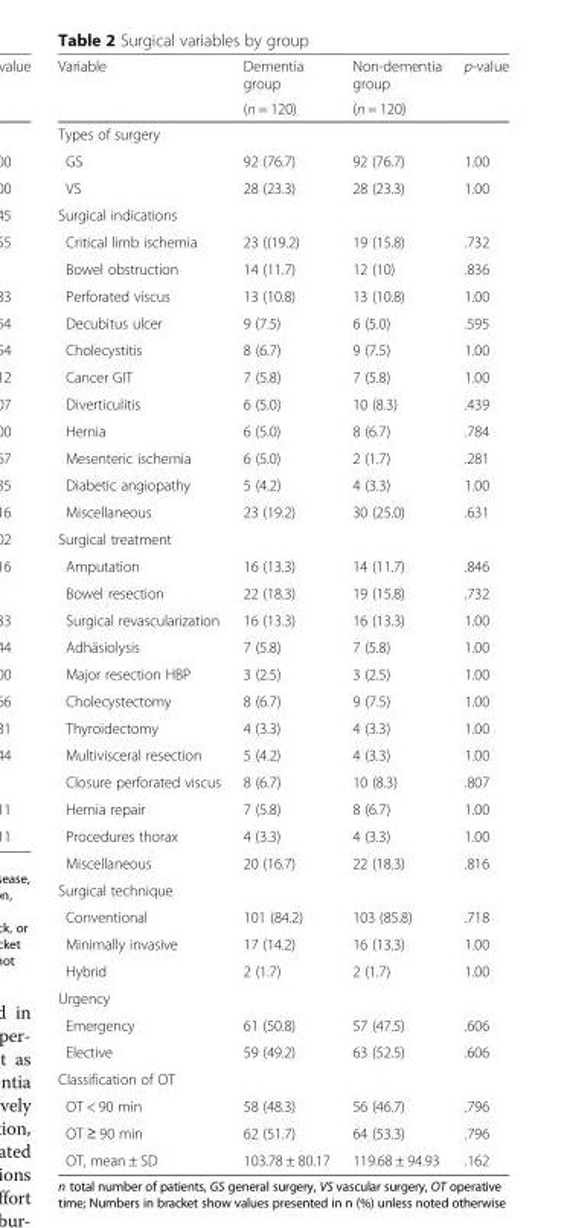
<table><thead><tr><td rowspan="2">Variable</td><td rowspan="2">Dementia group (n = 120)</td><td rowspan="2">Non-dementia group (n = 120)</td><td rowspan="2">p-value</td></tr><tr></tr></thead><tbody><tr><td colspan="4">Types of surgery</td></tr><tr><td>GS</td><td>92 (76.7)</td><td>92 (76.7)</td><td>1.00</td></tr><tr><td>VS</td><td>28 (23.3)</td><td>28 (23.3)</td><td>1.00</td></tr><tr><td colspan="4">Surgical indications</td></tr><tr><td>Critical limb ischemia</td><td>23 ((19.2)</td><td>19 (15.8)</td><td>.732</td></tr><tr><td>Bowel obstruction</td><td>14 (11.7)</td><td>12 (10)</td><td>.836</td></tr><tr><td>Perforated viscus</td><td>13 (10.8)</td><td>13 (10.8)</td><td>1.00</td></tr><tr><td>Decubitus ulcer</td><td>9 (7.5)</td><td>6 (5.0)</td><td>.595</td></tr><tr><td>Cholecystitis</td><td>8 (6.7)</td><td>9 (7.5)</td><td>1.00</td></tr><tr><td>Cancer GIT</td><td>7 (5.8)</td><td>7 (5.8)</td><td>1.00</td></tr><tr><td>Diverticulitis</td><td>6 (5.0)</td><td>10 (8.3)</td><td>.439</td></tr><tr><td>Hernia</td><td>6 (5.0)</td><td>8 (6.7)</td><td>.784</td></tr><tr><td>Mesenteric ischemia</td><td>6 (5.0)</td><td>2 (1.7)</td><td>.281</td></tr><tr><td>Diabetic angiopathy</td><td>5 (4.2)</td><td>4 (3.3)</td><td>1.00</td></tr><tr><td>Miscellaneous</td><td>23 (19.2)</td><td>30 (25.0)</td><td>.631</td></tr><tr><td colspan="4">Surgical treatment</td></tr><tr><td>Amputation</td><td>16 (13.3)</td><td>14 (11.7)</td><td>.846</td></tr><tr><td>Bowel resection</td><td>22 (18.3)</td><td>19 (15.8)</td><td>.732</td></tr><tr><td>Surgical revascularization</td><td>16 (13.3)</td><td>16 (13.3)</td><td>1.00</td></tr><tr><td>Adhäsiolysis</td><td>7 (5.8)</td><td>7 (5.8)</td><td>1.00</td></tr><tr><td>Major resection HBP</td><td>3 (2.5)</td><td>3 (2.5)</td><td>1.00</td></tr><tr><td>Cholecystectomy</td><td>8 (6.7)</td><td>9 (7.5)</td><td>1.00</td></tr><tr><td>Thyroidectomy</td><td>4 (3.3)</td><td>4 (3.3)</td><td>1.00</td></tr><tr><td>Multivisceral resection</td><td>5 (4.2)</td><td>4 (3.3)</td><td>1.00</td></tr><tr><td>Closure perforated viscus</td><td>8 (6.7)</td><td>10 (8.3)</td><td>.807</td></tr><tr><td>Hernia repair</td><td>7 (5.8)</td><td>8 (6.7)</td><td>1.00</td></tr><tr><td>Procedures thorax</td><td>4 (3.3)</td><td>4 (3.3)</td><td>1.00</td></tr><tr><td>Miscellaneous</td><td>20 (16.7)</td><td>22 (18.3)</td><td>.816</td></tr><tr><td colspan="4">Surgical technique</td></tr><tr><td>Conventional</td><td>101 (84.2)</td><td>103 (85.8)</td><td>.718</td></tr><tr><td>Minimally invasive</td><td>17 (14.2)</td><td>16 (13.3)</td><td>1.00</td></tr><tr><td>Hybrid</td><td>2 (1.7)</td><td>2 (1.7)</td><td>1.00</td></tr><tr><td colspan="4">Urgency</td></tr><tr><td>Emergency</td><td>61 (50.8)</td><td>57 (47.5)</td><td>.606</td></tr><tr><td>Elective</td><td>59 (49.2)</td><td>63 (52.5)</td><td>.606</td></tr><tr><td colspan="4">Classification of OT</td></tr><tr><td>OT &lt; 90 min</td><td>58 (48.3)</td><td>56 (46.7)</td><td>.796</td></tr><tr><td>OT ≥ 90 min</td><td>62 (51.7)</td><td>64 (53.3)</td><td>.796</td></tr><tr><td>OT, mean ± SD</td><td>103.78 ± 80.17</td><td>119.68 ± 94.93</td><td>.162</td></tr></tbody></table>